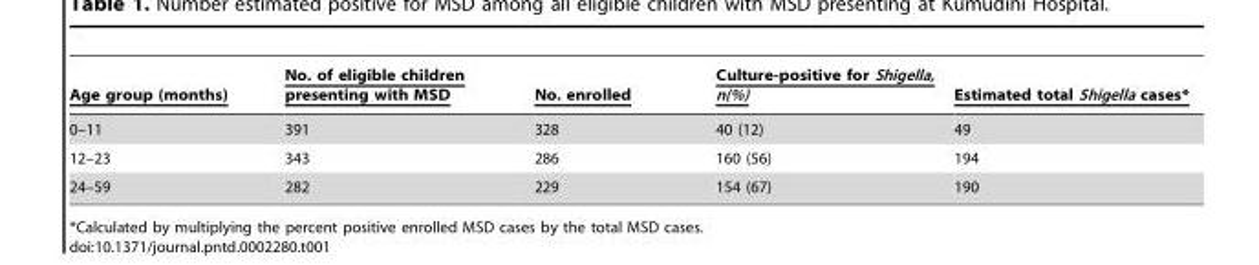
<table><thead><tr><td>Age group (months)</td><td>No. of eligible children presenting with MSD</td><td>No. enrolled</td><td>Culture-positive for Shigella, n(%)</td><td>Estimated total Shigella cases*</td></tr></thead><tbody><tr><td>0–11</td><td>391</td><td>328</td><td>40 (12)</td><td>49</td></tr><tr><td>12–23</td><td>343</td><td>286</td><td>160 (56)</td><td>194</td></tr><tr><td>24–59</td><td>282</td><td>229</td><td>154 (67)</td><td>190</td></tr></tbody></table>